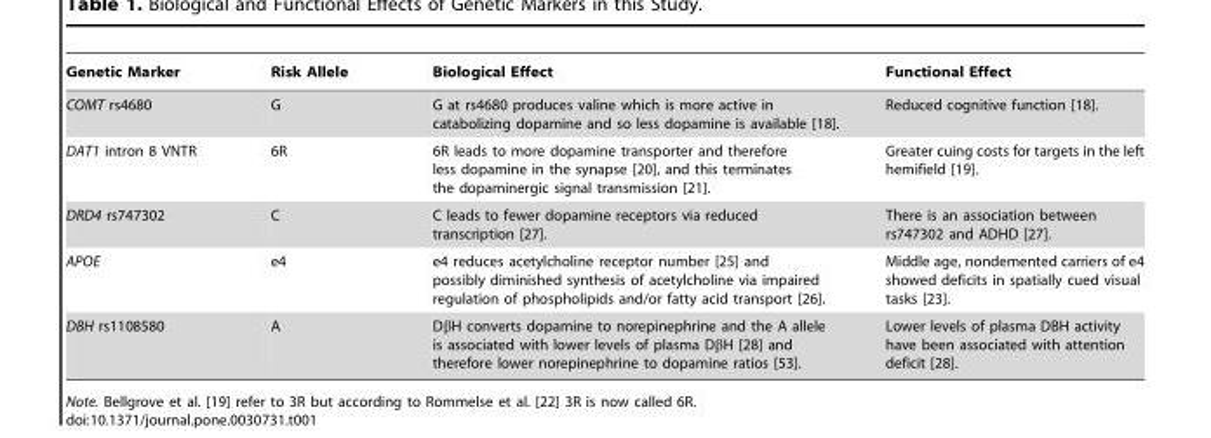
<table><thead><tr><td>Genetic Marker</td><td>Risk Allele</td><td>Biological Effect</td><td>Functional Effect</td></tr></thead><tbody><tr><td>COMT rs4680</td><td>G</td><td>G at rs4680 produces valine which is more active in catabolizing dopamine and so less dopamine is available [18].</td><td>Reduced cognitive function [18].</td></tr><tr><td>DAT1 intron 8 VNTR</td><td>6R</td><td>6R leads to more dopamine transporter and therefore less dopamine in the synapse [20], and this terminates the dopaminergic signal transmission [21].</td><td>Greater cuing costs for targets in the left hemifield [19].</td></tr><tr><td>DRD4 rs747302</td><td>C</td><td>C leads to fewer dopamine receptors via reduced transcription [27].</td><td>There is an association between rs747302 and ADHD [27].</td></tr><tr><td>APOE</td><td>e4</td><td>e4 reduces acetylcholine receptor number [25] and possibly diminished synthesis of acetylcholine via impaired regulation of phospholipids and/or fatty acid transport [26].</td><td>Middle age, nondemented carriers of e4 showed deficits in spatially cued visual tasks [23].</td></tr><tr><td>DBH rs1108580</td><td>A</td><td>DβH converts dopamine to norepinephrine and the A allele is associated with lower levels of plasma DβH [28] and therefore lower norepinephrine to dopamine ratios [53].</td><td>Lower levels of plasma DBH activity have been associated with attention deficit [28].</td></tr></tbody></table>